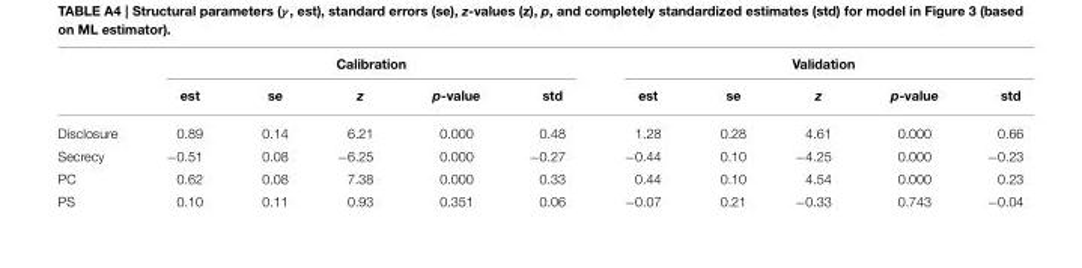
<table><thead><tr><td rowspan="2"></td><td colspan="5">Calibration</td><td colspan="5">Validation</td></tr><tr><td>est</td><td>se</td><td>z</td><td>p-value</td><td>std</td><td>est</td><td>se</td><td>z</td><td>p-value</td><td>std</td></tr></thead><tbody><tr><td>Disclosure</td><td>0.89</td><td>0.14</td><td>6.21</td><td>0.000</td><td>0.48</td><td>1.28</td><td>0.28</td><td>4.61</td><td>0.000</td><td>0.66</td></tr><tr><td>Secrecy</td><td>−0.51</td><td>0.08</td><td>−6.25</td><td>0.000</td><td>−0.27</td><td>−0.44</td><td>0.10</td><td>−4.25</td><td>0.000</td><td>−0.23</td></tr><tr><td>PC</td><td>0.62</td><td>0.08</td><td>7.38</td><td>0.000</td><td>0.33</td><td>0.44</td><td>0.10</td><td>4.54</td><td>0.000</td><td>0.23</td></tr><tr><td>PS</td><td>0.10</td><td>0.11</td><td>0.93</td><td>0.351</td><td>0.06</td><td>−0.07</td><td>0.21</td><td>−0.33</td><td>0.743</td><td>−0.04</td></tr></tbody></table>